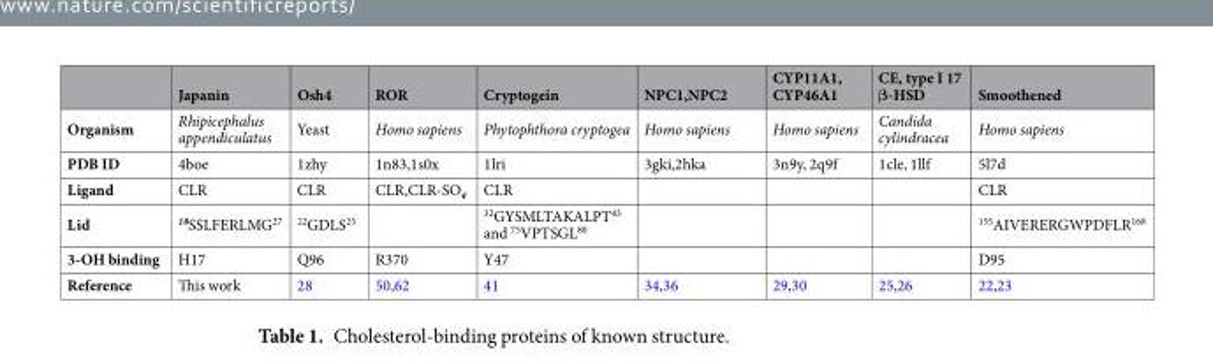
<table><thead><tr><td></td><td>Japanin</td><td>Osh4</td><td>ROR</td><td>Cryptogein</td><td>NPC1,NPC2</td><td>CYP11A1, CYP46A1</td><td>CE, type I 17 β-HSD</td><td>Smoothened</td></tr></thead><tbody><tr><td>Organism</td><td>Rhipicephalus appendiculatus</td><td>Yeast</td><td>Homo sapiens</td><td>Phytophthora cryptogea</td><td>Homo sapiens</td><td>Homo sapiens</td><td>Candida cylindracea</td><td>Homo sapiens</td></tr><tr><td>PDB ID</td><td>4boe</td><td>1zhy</td><td>1n83,1s0x</td><td>1lri</td><td>3gki,2hka</td><td>3n9y, 2q9f</td><td>1cle, 1llf</td><td>5l7d</td></tr><tr><td>Ligand</td><td>CLR</td><td>CLR</td><td>CLR,CLR-SO<sub>4</sub></td><td>CLR</td><td></td><td></td><td></td><td>CLR</td></tr><tr><td>Lid</td><td><sup>18</sup>SSLFERLMG<sup>27</sup></td><td><sup>22</sup>GDLS<sup>25</sup></td><td></td><td><sup>32</sup>GYSMLTAKALPT<sup>43</sup> and <sup>75</sup>VPTSGL<sup>80</sup></td><td></td><td></td><td></td><td><sup>155</sup>AIVERERGWPDFLR<sup>168</sup></td></tr><tr><td>3-OH binding</td><td>H17</td><td>Q96</td><td>R370</td><td>Y47</td><td></td><td></td><td></td><td>D95</td></tr><tr><td>Reference</td><td>This work</td><td><sup>28</sup></td><td>50,62</td><td><sup>41</sup></td><td><sup>34,36</sup></td><td>29,30</td><td><sup>25,26</sup></td><td><sup>22,23</sup></td></tr></tbody></table>